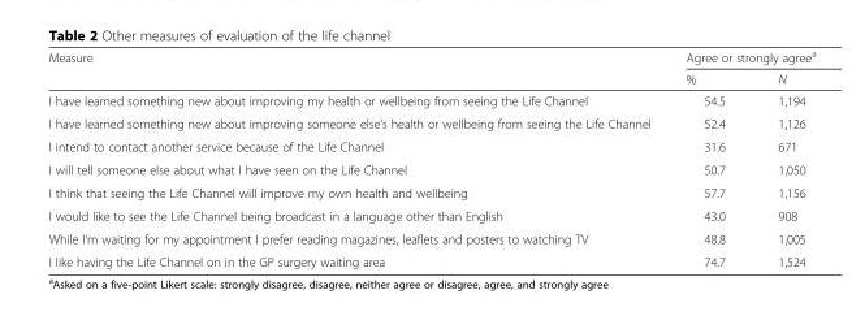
<table><thead><tr><td rowspan="2">Measure</td><td colspan="2">Agree or strongly agree<sup>a</sup></td></tr><tr><td>%</td><td>N</td></tr></thead><tbody><tr><td>I have learned something new about improving my health or wellbeing from seeing the Life Channel</td><td>54.5</td><td>1,194</td></tr><tr><td>I have learned something new about improving someone else’s health or wellbeing from seeing the Life Channel</td><td>52.4</td><td>1,126</td></tr><tr><td>I intend to contact another service because of the Life Channel</td><td>31.6</td><td>671</td></tr><tr><td>I will tell someone else about what I have seen on the Life Channel</td><td>50.7</td><td>1,050</td></tr><tr><td>I think that seeing the Life Channel will improve my own health and wellbeing</td><td>57.7</td><td>1,156</td></tr><tr><td>I would like to see the Life Channel being broadcast in a language other than English</td><td>43.0</td><td>908</td></tr><tr><td>While I’m waiting for my appointment I prefer reading magazines, leaflets and posters to watching TV</td><td>48.8</td><td>1,005</td></tr><tr><td>I like having the Life Channel on in the GP surgery waiting area</td><td>74.7</td><td>1,524</td></tr></tbody></table>